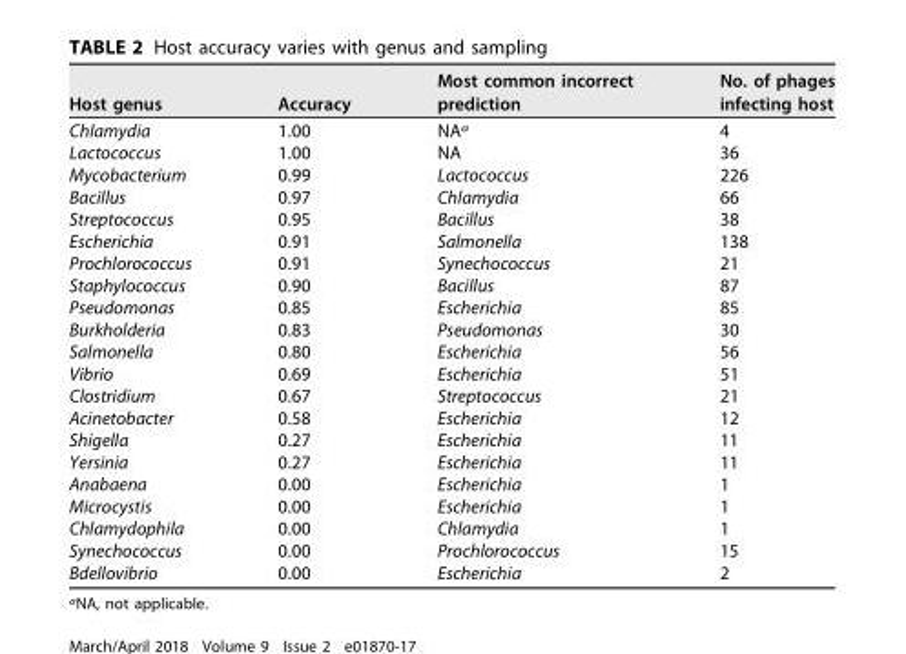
<table><thead><tr><td>Host genus</td><td>Accuracy</td><td>Most common incorrect prediction</td><td>No. of phages infecting host</td></tr></thead><tbody><tr><td>Chlamydia</td><td>1.00</td><td>NA<sup>a</sup></td><td>4</td></tr><tr><td>Lactococcus</td><td>1.00</td><td>NA</td><td>36</td></tr><tr><td>Mycobacterium</td><td>0.99</td><td>Lactococcus</td><td>226</td></tr><tr><td>Bacillus</td><td>0.97</td><td>Chlamydia</td><td>66</td></tr><tr><td>Streptococcus</td><td>0.95</td><td>Bacillus</td><td>38</td></tr><tr><td>Escherichia</td><td>0.91</td><td>Salmonella</td><td>138</td></tr><tr><td>Prochlorococcus</td><td>0.91</td><td>Synechococcus</td><td>21</td></tr><tr><td>Staphylococcus</td><td>0.90</td><td>Bacillus</td><td>87</td></tr><tr><td>Pseudomonas</td><td>0.85</td><td>Escherichia</td><td>85</td></tr><tr><td>Burkholderia</td><td>0.83</td><td>Pseudomonas</td><td>30</td></tr><tr><td>Salmonella</td><td>0.80</td><td>Escherichia</td><td>56</td></tr><tr><td>Vibrio</td><td>0.69</td><td>Escherichia</td><td>51</td></tr><tr><td>Clostridium</td><td>0.67</td><td>Streptococcus</td><td>21</td></tr><tr><td>Acinetobacter</td><td>0.58</td><td>Escherichia</td><td>12</td></tr><tr><td>Shigella</td><td>0.27</td><td>Escherichia</td><td>11</td></tr><tr><td>Yersinia</td><td>0.27</td><td>Escherichia</td><td>11</td></tr><tr><td>Anabaena</td><td>0.00</td><td>Escherichia</td><td>1</td></tr><tr><td>Microcystis</td><td>0.00</td><td>Escherichia</td><td>1</td></tr><tr><td>Chlamydophila</td><td>0.00</td><td>Chlamydia</td><td>1</td></tr><tr><td>Synechococcus</td><td>0.00</td><td>Prochlorococcus</td><td>15</td></tr><tr><td>Bdellovibrio</td><td>0.00</td><td>Escherichia</td><td>2</td></tr></tbody></table>